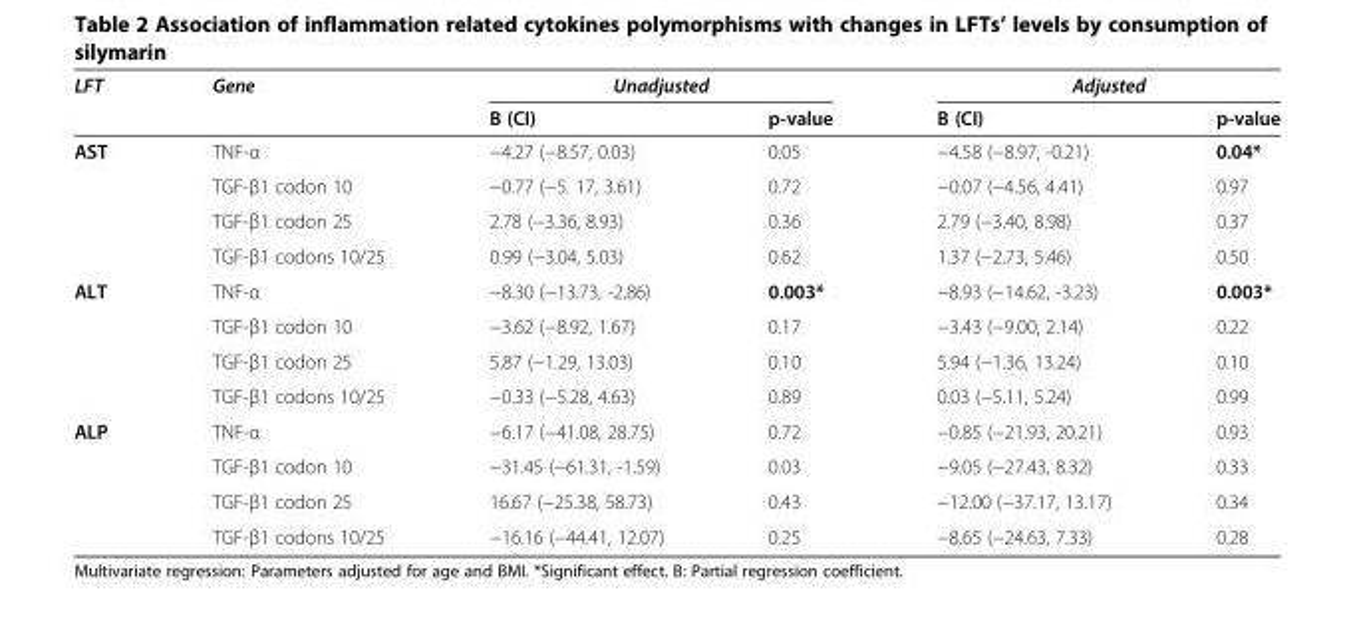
<table><thead><tr><td rowspan="2">LFT</td><td rowspan="2">Gene</td><td rowspan="2">Unadjusted B (CI)</td><td rowspan="2">p-value</td><td rowspan="2">Adjusted B (CI)</td><td rowspan="2">p-value</td></tr><tr></tr></thead><tbody><tr><td rowspan="4">AST</td><td>TNF-α</td><td>−4.27 (−8.57, 0.03)</td><td>0.05</td><td>−4.58 (−8.97, -0.21)</td><td>0.04*</td></tr><tr><td>TGF-β1 codon 10</td><td>−0.77 (−5. 17, 3.61)</td><td>0.72</td><td>−0.07 (−4.56, 4.41)</td><td>0.97</td></tr><tr><td>TGF-β1 codon 25</td><td>2.78 (−3.36, 8.93)</td><td>0.36</td><td>2.79 (−3.40, 8.98)</td><td>0.37</td></tr><tr><td>TGF-β1 codons 10/25</td><td>0.99 (−3.04, 5.03)</td><td>0.62</td><td>1.37 (−2.73, 5.46)</td><td>0.50</td></tr><tr><td rowspan="4">ALT</td><td>TNF-α</td><td>−8.30 (−13.73, -2.86)</td><td>0.003*</td><td>−8.93 (−14.62, -3.23)</td><td>0.003*</td></tr><tr><td>TGF-β1 codon 10</td><td>−3.62 (−8.92, 1.67)</td><td>0.17</td><td>−3.43 (−9.00, 2.14)</td><td>0.22</td></tr><tr><td>TGF-β1 codon 25</td><td>5.87 (−1.29, 13.03)</td><td>0.10</td><td>5.94 (−1.36, 13.24)</td><td>0.10</td></tr><tr><td>TGF-β1 codons 10/25</td><td>−0.33 (−5.28, 4.63)</td><td>0.89</td><td>0.03 (−5.11, 5.24)</td><td>0.99</td></tr><tr><td rowspan="4">ALP</td><td>TNF-α</td><td>−6.17 (−41.08, 28.75)</td><td>0.72</td><td>−0.85 (−21.93, 20.21)</td><td>0.93</td></tr><tr><td>TGF-β1 codon 10</td><td>−31.45 (−61.31, -1.59)</td><td>0.03</td><td>−9.05 (−27.43, 8.32)</td><td>0.33</td></tr><tr><td>TGF-β1 codon 25</td><td>16.67 (−25.38, 58.73)</td><td>0.43</td><td>−12.00 (−37.17, 13.17)</td><td>0.34</td></tr><tr><td>TGF-β1 codons 10/25</td><td>−16.16 (−44.41, 12.07)</td><td>0.25</td><td>−8.65 (−24.63, 7.33)</td><td>0.28</td></tr></tbody></table>